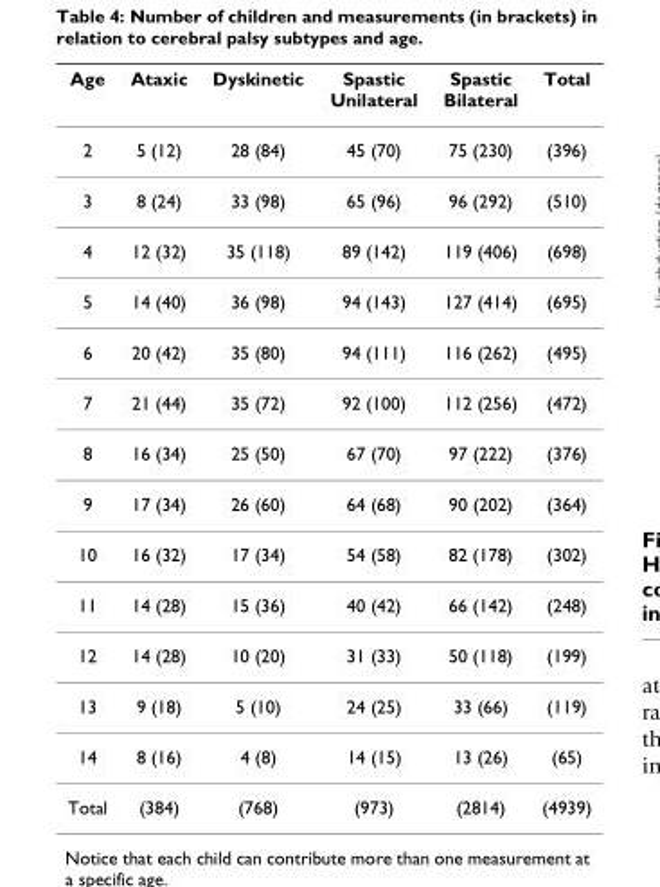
<table><thead><tr><td>Age</td><td>Ataxic</td><td>Dyskinetic</td><td>Spastic Unilateral</td><td>Spastic Bilateral</td><td>Total</td></tr></thead><tbody><tr><td>2</td><td>5 (12)</td><td>28 (84)</td><td>45 (70)</td><td>75 (230)</td><td>(396)</td></tr><tr><td>3</td><td>8 (24)</td><td>33 (98)</td><td>65 (96)</td><td>96 (292)</td><td>(510)</td></tr><tr><td>4</td><td>12 (32)</td><td>35 (118)</td><td>89 (142)</td><td>119 (406)</td><td>(698)</td></tr><tr><td>5</td><td>14 (40)</td><td>36 (98)</td><td>94 (143)</td><td>127 (414)</td><td>(695)</td></tr><tr><td>6</td><td>20 (42)</td><td>35 (80)</td><td>94 (111)</td><td>116 (262)</td><td>(495)</td></tr><tr><td>7</td><td>21 (44)</td><td>35 (72)</td><td>92 (100)</td><td>112 (256)</td><td>(472)</td></tr><tr><td>8</td><td>16 (34)</td><td>25 (50)</td><td>67 (70)</td><td>97 (222)</td><td>(376)</td></tr><tr><td>9</td><td>17 (34)</td><td>26 (60)</td><td>64 (68)</td><td>90 (202)</td><td>(364)</td></tr><tr><td>10</td><td>16 (32)</td><td>17 (34)</td><td>54 (58)</td><td>82 (178)</td><td>(302)</td></tr><tr><td>11</td><td>14 (28)</td><td>15 (36)</td><td>40 (42)</td><td>66 (142)</td><td>(248)</td></tr><tr><td>12</td><td>14 (28)</td><td>10 (20)</td><td>31 (33)</td><td>50 (118)</td><td>(199)</td></tr><tr><td>13</td><td>9 (18)</td><td>5 (10)</td><td>24 (25)</td><td>33 (66)</td><td>(119)</td></tr><tr><td>14</td><td>8 (16)</td><td>4 (8)</td><td>14 (15)</td><td>13 (26)</td><td>(65)</td></tr><tr><td>Total</td><td>(384)</td><td>(768)</td><td>(973)</td><td>(2814)</td><td>(4939)</td></tr></tbody></table>